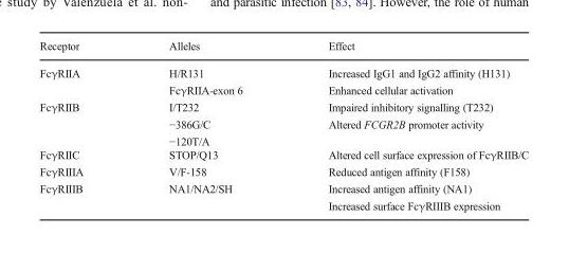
<table><thead><tr><td>Receptor</td><td>Alleles</td><td>Effect</td></tr></thead><tbody><tr><td rowspan="2">FcγRIIA</td><td>H/R131</td><td>Increased IgG1 and IgG2 affinity (H131)</td></tr><tr><td>FcγRIIA-exon 6</td><td>Enhanced cellular activation</td></tr><tr><td rowspan="2">FcγRIIB</td><td>I/T232</td><td>Impaired inhibitory signalling (T232)</td></tr><tr><td>−386G/C −120T/A</td><td>Altered FCGR2B promoter activity</td></tr><tr><td>FcγRIIC</td><td>STOP/Q13</td><td>Altered cell surface expression of FcγRIIB/C</td></tr><tr><td>FcγRIIIA</td><td>V/F-158</td><td>Reduced antigen affinity (F158)</td></tr><tr><td>FcγRIIIB</td><td>NA1/NA2/SH</td><td>Increased antigen affinity (NA1) Increased surface FcγRIIIB expression</td></tr></tbody></table>